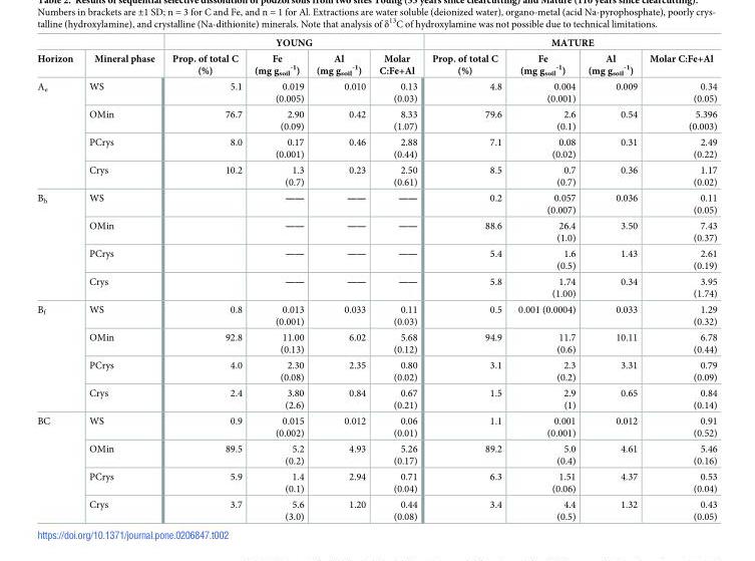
<table><thead><tr><td rowspan="2">Horizon</td><td rowspan="2">Mineral phase</td><td colspan="4">YOUNG</td><td colspan="4">MATURE</td></tr><tr><td>Prop. of total C (%)</td><td>Fe (mg g<sub>soil</sub> <sup>-1</sup>)</td><td>Al (mg g<sub>soil</sub> <sup>-1</sup>)</td><td>Molar C:Fe+Al</td><td>Prop. of total C (%)</td><td>Fe (mg g<sub>soil</sub> <sup>-1</sup>)</td><td>Al (mg g<sub>soil</sub> <sup>-1</sup>)</td><td>Molar C:Fe+Al</td></tr></thead><tbody><tr><td rowspan="4">A<sub>e</sub></td><td>WS</td><td>5.1</td><td>0.019 (0.005)</td><td>0.010</td><td>0.13 (0.03)</td><td>4.8</td><td>0.004 (0.001)</td><td>0.009</td><td>0.34 (0.05)</td></tr><tr><td>OMin</td><td>76.7</td><td>2.90 (0.09)</td><td>0.42</td><td>8.33 (1.07)</td><td>79.6</td><td>2.6 (0.1)</td><td>0.54</td><td>5.396 (0.003)</td></tr><tr><td>PCrys</td><td>8.0</td><td>0.17 (0.001)</td><td>0.46</td><td>2.88 (0.44)</td><td>7.1</td><td>0.08 (0.02)</td><td>0.31</td><td>2.49 (0.22)</td></tr><tr><td>Crys</td><td>10.2</td><td>1.3 (0.7)</td><td>0.23</td><td>2.50 (0.61)</td><td>8.5</td><td>0.7 (0.7)</td><td>0.36</td><td>1.17 (0.02)</td></tr><tr><td rowspan="4">B<sub>h</sub></td><td>WS</td><td></td><td>——</td><td>——</td><td>——</td><td>0.2</td><td>0.057 (0.007)</td><td>0.036</td><td>0.11 (0.05)</td></tr><tr><td>OMin</td><td></td><td>——</td><td>——</td><td>——</td><td>88.6</td><td>26.4 (1.0)</td><td>3.50</td><td>7.43 (0.37)</td></tr><tr><td>PCrys</td><td></td><td>——</td><td>——</td><td>——</td><td>5.4</td><td>1.6 (0.5)</td><td>1.43</td><td>2.61 (0.19)</td></tr><tr><td>Crys</td><td></td><td>——</td><td>——</td><td>——</td><td>5.8</td><td>1.74 (1.00)</td><td>0.34</td><td>3.95 (1.74)</td></tr><tr><td rowspan="4">B<sub>f</sub></td><td>WS</td><td>0.8</td><td>0.013 (0.001)</td><td>0.033</td><td>0.11 (0.03)</td><td>0.5</td><td>0.001 (0.0004)</td><td>0.033</td><td>1.29 (0.32)</td></tr><tr><td>OMin</td><td>92.8</td><td>11.00 (0.13)</td><td>6.02</td><td>5.68 (0.12)</td><td>94.9</td><td>11.7 (0.6)</td><td>10.11</td><td>6.78 (0.44)</td></tr><tr><td>PCrys</td><td>4.0</td><td>2.30 (0.08)</td><td>2.35</td><td>0.80 (0.02)</td><td>3.1</td><td>2.3 (0.2)</td><td>3.31</td><td>0.79 (0.09)</td></tr><tr><td>Crys</td><td>2.4</td><td>3.80 (2.6)</td><td>0.84</td><td>0.67 (0.21)</td><td>1.5</td><td>2.9 (1)</td><td>0.65</td><td>0.84 (0.14)</td></tr><tr><td rowspan="4">BC</td><td>WS</td><td>0.9</td><td>0.015 (0.002)</td><td>0.012</td><td>0.06 (0.01)</td><td>1.1</td><td>0.001 (0.001)</td><td>0.012</td><td>0.91 (0.52)</td></tr><tr><td>OMin</td><td>89.5</td><td>5.2 (0.2)</td><td>4.93</td><td>5.26 (0.17)</td><td>89.2</td><td>5.0 (0.4)</td><td>4.61</td><td>5.46 (0.16)</td></tr><tr><td>PCrys</td><td>5.9</td><td>1.4 (0.1)</td><td>2.94</td><td>0.71 (0.04)</td><td>6.3</td><td>1.51 (0.06)</td><td>4.37</td><td>0.53 (0.04)</td></tr><tr><td>Crys</td><td>3.7</td><td>5.6 (3.0)</td><td>1.20</td><td>0.44 (0.08)</td><td>3.4</td><td>4.4 (0.5)</td><td>1.32</td><td>0.43 (0.05)</td></tr></tbody></table>